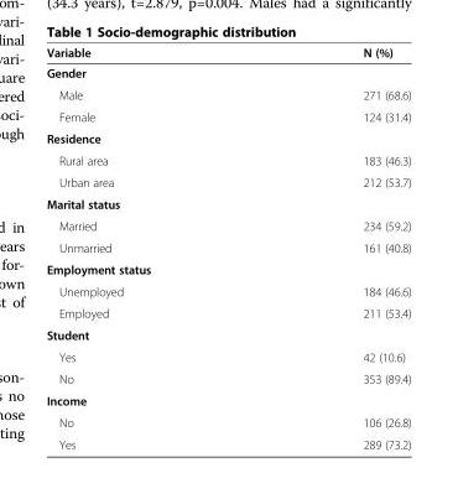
<table><thead><tr><td>Variable</td><td>N (%)</td></tr></thead><tbody><tr><td colspan="2">Gender</td></tr><tr><td>Male</td><td>271 (68.6)</td></tr><tr><td>Female</td><td>124 (31.4)</td></tr><tr><td colspan="2">Residence</td></tr><tr><td>Rural area</td><td>183 (46.3)</td></tr><tr><td>Urban area</td><td>212 (53.7)</td></tr><tr><td colspan="2">Marital status</td></tr><tr><td>Married</td><td>234 (59.2)</td></tr><tr><td>Unmarried</td><td>161 (40.8)</td></tr><tr><td colspan="2">Employment status</td></tr><tr><td>Unemployed</td><td>184 (46.6)</td></tr><tr><td>Employed</td><td>211 (53.4)</td></tr><tr><td colspan="2">Student</td></tr><tr><td>Yes</td><td>42 (10.6)</td></tr><tr><td>No</td><td>353 (89.4)</td></tr><tr><td colspan="2">Income</td></tr><tr><td>No</td><td>106 (26.8)</td></tr><tr><td>Yes</td><td>289 (73.2)</td></tr></tbody></table>